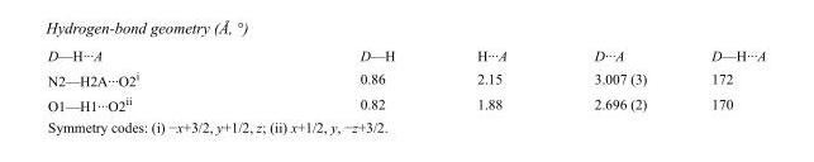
<table><tbody><tr><td>D—H···A</td><td>D—H</td><td>H···A</td><td>D···A</td><td>D—H···A</td></tr><tr><td>N2—H2A···O2<sup>i</sup></td><td>0.86</td><td>2.15</td><td>3.007 (3)</td><td>172</td></tr><tr><td>O1—H1···O2<sup>ii</sup></td><td>0.82</td><td>1.88</td><td>2.696 (2)</td><td>170</td></tr></tbody></table>